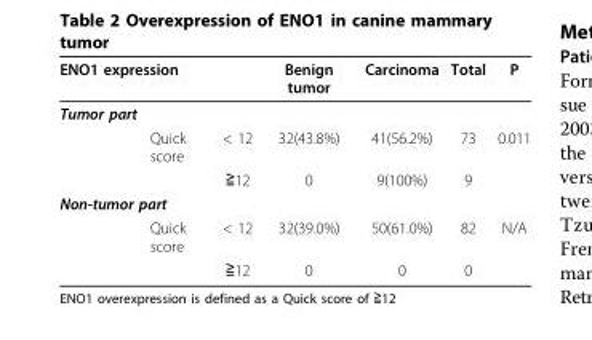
<table><thead><tr><td>ENO1 expression</td><td></td><td>Benign tumor</td><td>Carcinoma</td><td>Total</td><td>P</td></tr></thead><tbody><tr><td colspan="6">Tumor part</td></tr><tr><td rowspan="2">Quick score</td><td>&lt; 12</td><td>32(43.8%)</td><td>41(56.2%)</td><td>73</td><td>0.011</td></tr><tr><td>≧12</td><td>0</td><td>9(100%)</td><td>9</td><td></td></tr><tr><td colspan="6">Non-tumor part</td></tr><tr><td rowspan="2">Quick score</td><td>&lt; 12</td><td>32(39.0%)</td><td>50(61.0%)</td><td>82</td><td>N/A</td></tr><tr><td>≧12</td><td>0</td><td>0</td><td>0</td><td></td></tr></tbody></table>